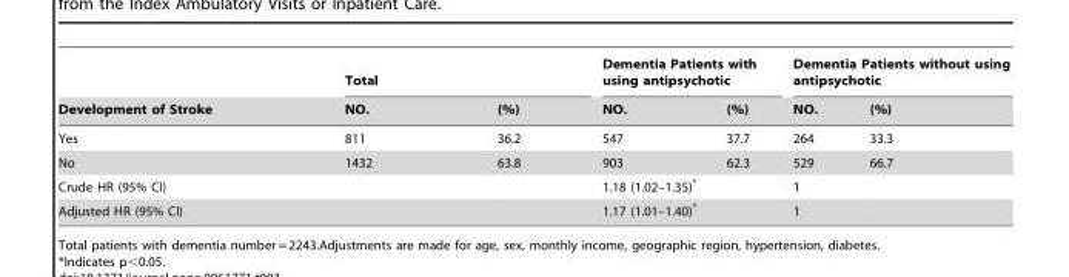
<table><thead><tr><td rowspan="2">Development of Stroke</td><td colspan="2">Total</td><td colspan="2">Dementia Patients with using antipsychotic</td><td colspan="2">Dementia Patients without using antipsychotic</td></tr><tr><td>NO.</td><td>(%)</td><td>NO.</td><td>(%)</td><td>NO.</td><td>(%)</td></tr></thead><tbody><tr><td>Yes</td><td>811</td><td>36.2</td><td>547</td><td>37.7</td><td>264</td><td>33.3</td></tr><tr><td>No</td><td>1432</td><td>63.8</td><td>903</td><td>62.3</td><td>529</td><td>66.7</td></tr><tr><td>Crude HR (95% CI)</td><td></td><td></td><td colspan="2">1.18 (1.02–1.35)*</td><td>1</td><td></td></tr><tr><td>Adjusted HR (95% CI)</td><td></td><td></td><td colspan="2">1.17 (1.01–1.40)*</td><td>1</td><td></td></tr></tbody></table>